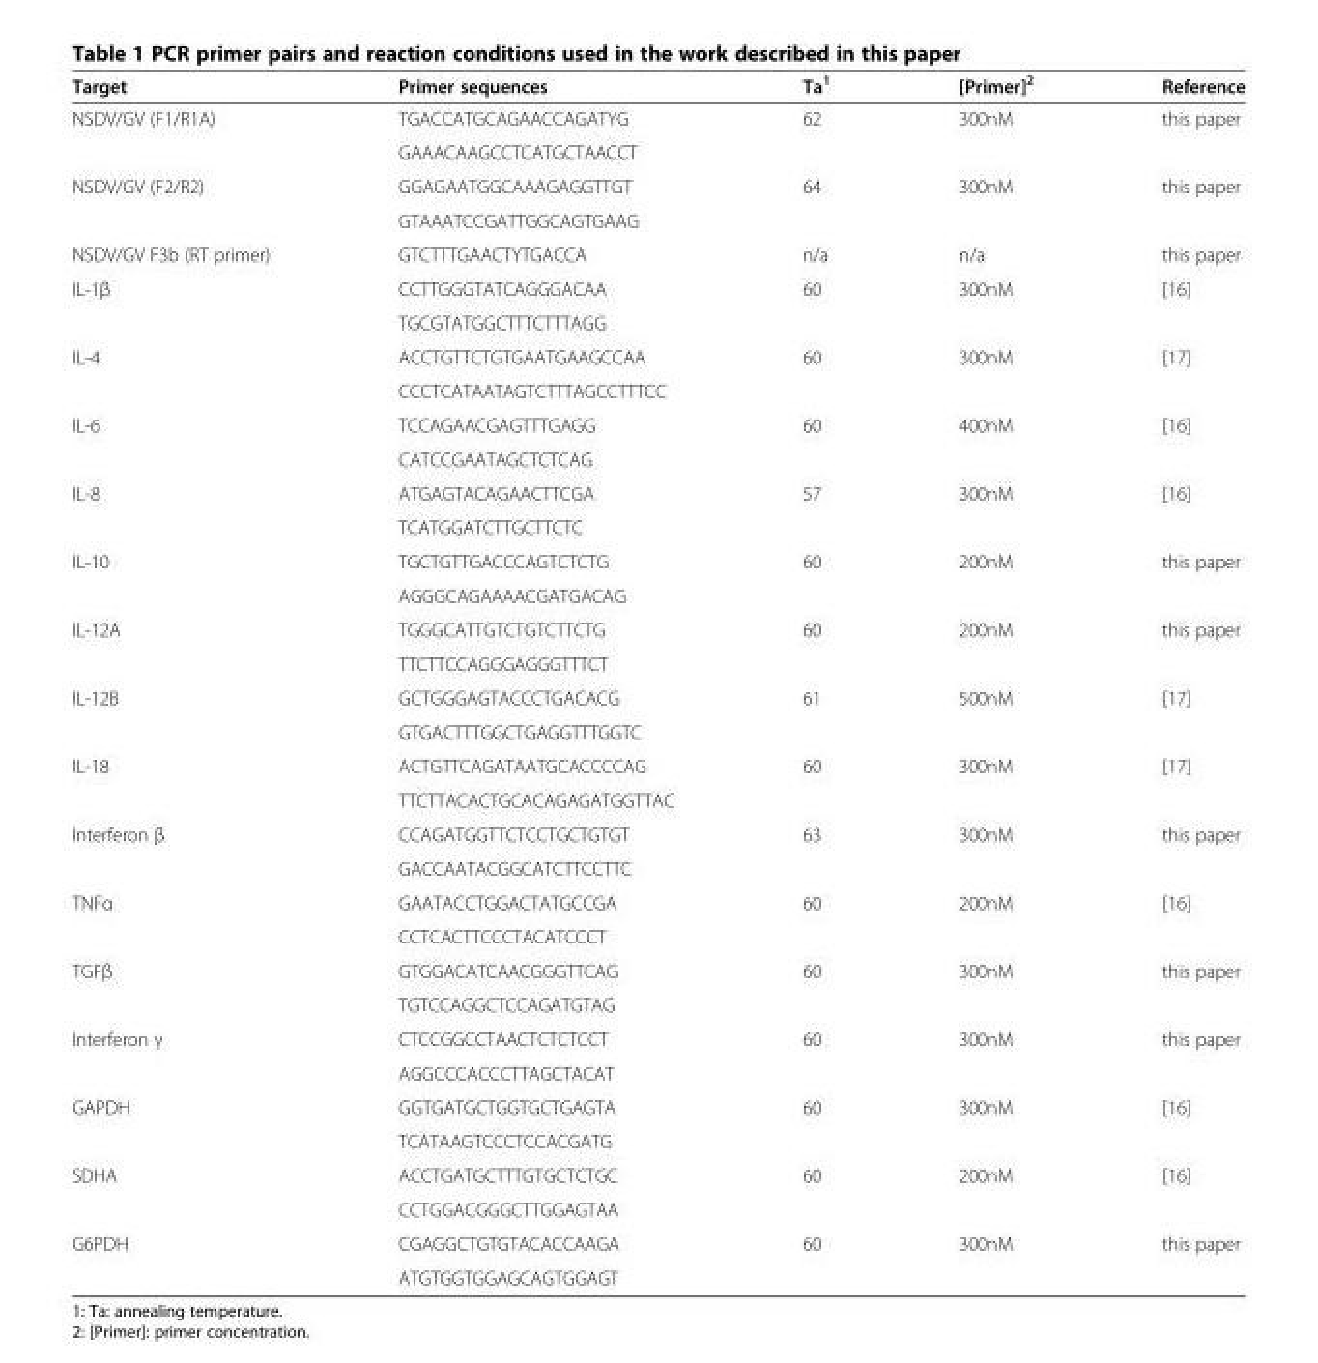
<table><thead><tr><td>Target</td><td>Primer sequences</td><td>Ta<sup>1</sup></td><td>[Primer]<sup>2</sup></td><td>Reference</td></tr></thead><tbody><tr><td rowspan="2">NSDV/GV (F1/R1A)</td><td>TGACCATGCAGAACCAGATYG</td><td>62</td><td>300nM</td><td>this paper</td></tr><tr><td>GAAACAAGCCTCATGCTAACCT</td><td></td><td></td><td></td></tr><tr><td rowspan="2">NSDV/GV (F2/R2)</td><td>GGAGAATGGCAAAGAGGTTGT</td><td>64</td><td>300nM</td><td>this paper</td></tr><tr><td>GTAAATCCGATTGGCAGTGAAG</td><td></td><td></td><td></td></tr><tr><td>NSDV/GV F3b (RT primer)</td><td>GTCTTTGAACTYTGACCA</td><td>n/a</td><td>n/a</td><td>this paper</td></tr><tr><td rowspan="2">IL-1β</td><td>CCTTGGGTATCAGGGACAA</td><td>60</td><td>300nM</td><td>[16]</td></tr><tr><td>TGCGTATGGCTTTCTTTAGG</td><td></td><td></td><td></td></tr><tr><td rowspan="2">IL-4</td><td>ACCTGTTCTGTGAATGAAGCCAA</td><td>60</td><td>300nM</td><td>[17]</td></tr><tr><td>CCCTCATAATAGTCTTTAGCCTTTCC</td><td></td><td></td><td></td></tr><tr><td rowspan="2">IL-6</td><td>TCCAGAACGAGTTTGAGG</td><td>60</td><td>400nM</td><td>[16]</td></tr><tr><td>CATCCGAATAGCTCTCAG</td><td></td><td></td><td></td></tr><tr><td rowspan="2">IL-8</td><td>ATGAGTACAGAACTTCGA</td><td>57</td><td>300nM</td><td>[16]</td></tr><tr><td>TCATGGATCTTGCTTCTC</td><td></td><td></td><td></td></tr><tr><td rowspan="2">IL-10</td><td>TGCTGTTGACCCAGTCTCTG</td><td>60</td><td>200nM</td><td>this paper</td></tr><tr><td>AGGGCAGAAAACGATGACAG</td><td></td><td></td><td></td></tr><tr><td rowspan="2">IL-12A</td><td>TGGGCATTGTCTGTCTTCTG</td><td>60</td><td>200nM</td><td>this paper</td></tr><tr><td>TTCTTCCAGGGAGGGTTTCT</td><td></td><td></td><td></td></tr><tr><td rowspan="2">IL-12B</td><td>GCTGGGAGTACCCTGACACG</td><td>61</td><td>500nM</td><td>[17]</td></tr><tr><td>GTGACTTTGGCTGAGGTTTGGTC</td><td></td><td></td><td></td></tr><tr><td rowspan="2">IL-18</td><td>ACTGTTCAGATAATGCACCCCAG</td><td>60</td><td>300nM</td><td>[17]</td></tr><tr><td>TTCTTACACTGCACAGAGATGGTTAC</td><td></td><td></td><td></td></tr><tr><td rowspan="2">Interferon β</td><td>CCAGATGGTTCTCCTGCTGTGT</td><td>63</td><td>300nM</td><td>this paper</td></tr><tr><td>GACCAATACGGCATCTTCCTTC</td><td></td><td></td><td></td></tr><tr><td rowspan="2">TNFα</td><td>GAATACCTGGACTATGCCGA</td><td>60</td><td>200nM</td><td>[16]</td></tr><tr><td>CCTCACTTCCCTACATCCCT</td><td></td><td></td><td></td></tr><tr><td rowspan="2">TGFβ</td><td>GTGGACATCAACGGGTTCAG</td><td>60</td><td>300nM</td><td>this paper</td></tr><tr><td>TGTCCAGGCTCCAGATGTAG</td><td></td><td></td><td></td></tr><tr><td rowspan="2">Interferon γ</td><td>CTCCGGCCTAACTCTCTCCT</td><td>60</td><td>300nM</td><td>this paper</td></tr><tr><td>AGGCCCACCCTTAGCTACAT</td><td></td><td></td><td></td></tr><tr><td rowspan="2">GAPDH</td><td>GGTGATGCTGGTGCTGAGTA</td><td>60</td><td>300nM</td><td>[16]</td></tr><tr><td>TCATAAGTCCCTCCACGATG</td><td></td><td></td><td></td></tr><tr><td rowspan="2">SDHA</td><td>ACCTGATGCTTTGTGCTCTGC</td><td>60</td><td>200nM</td><td>[16]</td></tr><tr><td>CCTGGACGGGCTTGGAGTAA</td><td></td><td></td><td></td></tr><tr><td rowspan="2">G6PDH</td><td>CGAGGCTGTGTACACCAAGA</td><td>60</td><td>300nM</td><td>this paper</td></tr><tr><td>ATGTGGTGGAGCAGTGGAGT</td><td></td><td></td><td></td></tr></tbody></table>